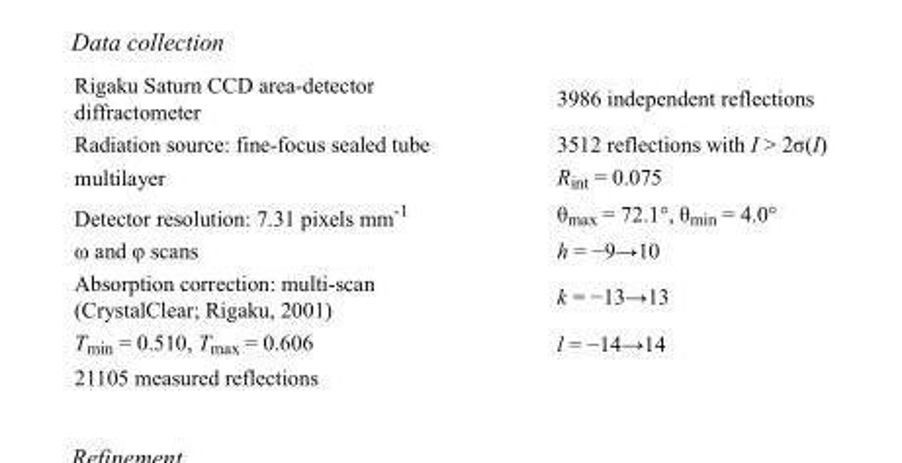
<table><tbody><tr><td>Rigaku Saturn CCD area-detector diffractometer</td><td>3986 independent reflections</td></tr><tr><td>Radiation source: fine-focus sealed tube</td><td>3512 reflections with I &gt; 2σ(I)</td></tr><tr><td>multilayer</td><td>R<sub>int</sub> = 0.075</td></tr><tr><td>Detector resolution: 7.31 pixels mm<sup>-1</sup></td><td>θ<sub>max</sub> = 72.1°, θ<sub>min</sub> = 4.0°</td></tr><tr><td>ω and φ scans</td><td>h = −9→10</td></tr><tr><td>Absorption correction: multi-scan (CrystalClear; Rigaku, 2001)</td><td>k = −13→13</td></tr><tr><td>T<sub>min</sub> = 0.510, T<sub>max</sub> = 0.606</td><td>l = −14→14</td></tr><tr><td>21105 measured reflections</td><td></td></tr></tbody></table>